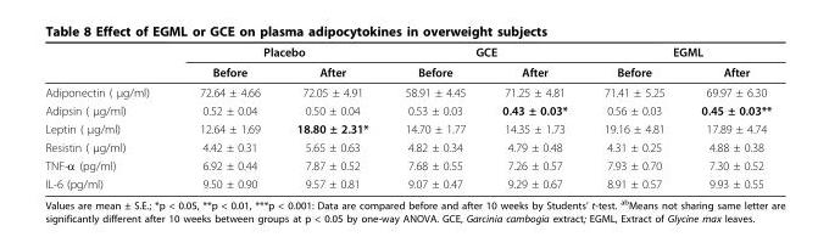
<table><thead><tr><td rowspan="2"></td><td colspan="2">Placebo</td><td colspan="2">GCE</td><td colspan="2">EGML</td></tr><tr><td>Before</td><td>After</td><td>Before</td><td>After</td><td>Before</td><td>After</td></tr></thead><tbody><tr><td>Adiponectin ( μg/ml)</td><td>72.64 ± 4.66</td><td>72.05 ± 4.91</td><td>58.91 ± 4.45</td><td>71.25 ± 4.81</td><td>71.41 ± 5.25</td><td>69.97 ± 6.30</td></tr><tr><td>Adipsin ( μg/ml)</td><td>0.52 ± 0.04</td><td>0.50 ± 0.04</td><td>0.53 ± 0.03</td><td>0.43 ± 0.03*</td><td>0.56 ± 0.03</td><td>0.45 ± 0.03**</td></tr><tr><td>Leptin ( μg/ml)</td><td>12.64 ± 1.69</td><td>18.80 ± 2.31*</td><td>14.70 ± 1.77</td><td>14.35 ± 1.73</td><td>19.16 ± 4.81</td><td>17.89 ± 4.74</td></tr><tr><td>Resistin ( μg/ml)</td><td>4.42 ± 0.31</td><td>5.65 ± 0.63</td><td>4.82 ± 0.34</td><td>4.79 ± 0.48</td><td>4.31 ± 0.25</td><td>4.88 ± 0.38</td></tr><tr><td>TNF-α (pg/ml)</td><td>6.92 ± 0.44</td><td>7.87 ± 0.52</td><td>7.68 ± 0.55</td><td>7.26 ± 0.57</td><td>7.93 ± 0.70</td><td>7.30 ± 0.52</td></tr><tr><td>IL-6 (pg/ml)</td><td>9.50 ± 0.90</td><td>9.57 ± 0.81</td><td>9.07 ± 0.47</td><td>9.29 ± 0.67</td><td>8.91 ± 0.57</td><td>9.93 ± 0.55</td></tr></tbody></table>